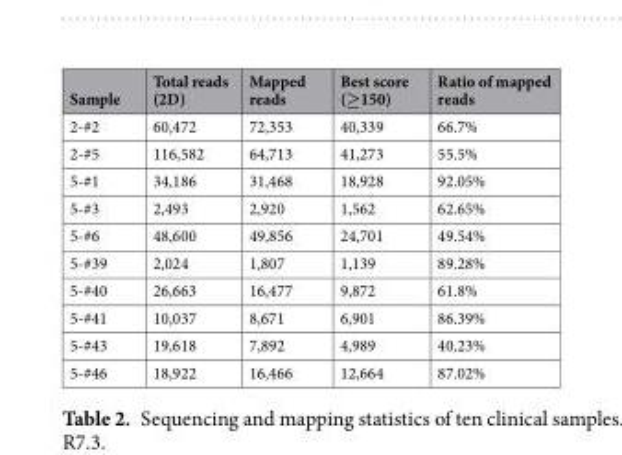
<table><thead><tr><td>Sample</td><td>Total reads (2D)</td><td>Mapped reads</td><td>Best score (≥150)</td><td>Ratio of mapped reads</td></tr></thead><tbody><tr><td>2-#2</td><td>60,472</td><td>72,353</td><td>40,339</td><td>66.7%</td></tr><tr><td>2-#5</td><td>116,582</td><td>64,713</td><td>41,273</td><td>55.5%</td></tr><tr><td>5-#1</td><td>34,186</td><td>31,468</td><td>18,928</td><td>92.05%</td></tr><tr><td>5-#3</td><td>2,493</td><td>2,920</td><td>1,562</td><td>62.65%</td></tr><tr><td>5-#6</td><td>48,600</td><td>49,856</td><td>24,701</td><td>49.54%</td></tr><tr><td>5-#39</td><td>2,024</td><td>1,807</td><td>1,139</td><td>89.28%</td></tr><tr><td>5-#40</td><td>26,663</td><td>16,477</td><td>9,872</td><td>61.8%</td></tr><tr><td>5-#41</td><td>10,037</td><td>8,671</td><td>6,901</td><td>86.39%</td></tr><tr><td>5-#43</td><td>19,618</td><td>7,892</td><td>4,989</td><td>40.23%</td></tr><tr><td>5-#46</td><td>18,922</td><td>16,466</td><td>12,664</td><td>87.02%</td></tr></tbody></table>